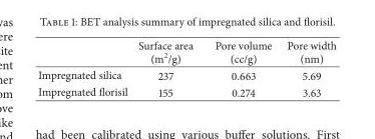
<table><thead><tr><td></td><td>Surface area (m<sup>2</sup>/g)</td><td>Pore volume (cc/g)</td><td>Pore width (nm)</td></tr></thead><tbody><tr><td>Impregnated silica</td><td>237</td><td>0.663</td><td>5.69</td></tr><tr><td>Impregnated florisil</td><td>155</td><td>0.274</td><td>3.63</td></tr></tbody></table>